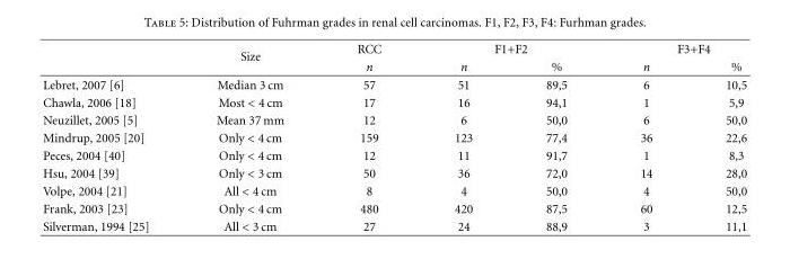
<table><thead><tr><td rowspan="2"></td><td rowspan="2">Size</td><td rowspan="2">RCC n</td><td colspan="2">F1+F2</td><td colspan="2">F3+F4</td></tr><tr><td>n</td><td>%</td><td>n</td><td>%</td></tr></thead><tbody><tr><td>Lebret, 2007 [6]</td><td>Median 3 cm</td><td>57</td><td>51</td><td>89,5</td><td>6</td><td>10,5</td></tr><tr><td>Chawla, 2006 [18]</td><td>Most &lt; 4 cm</td><td>17</td><td>16</td><td>94,1</td><td>1</td><td>5,9</td></tr><tr><td>Neuzillet, 2005 [5]</td><td>Mean 37 mm</td><td>12</td><td>6</td><td>50,0</td><td>6</td><td>50,0</td></tr><tr><td>Mindrup, 2005 [20]</td><td>Only &lt; 4 cm</td><td>159</td><td>123</td><td>77,4</td><td>36</td><td>22,6</td></tr><tr><td>Peces, 2004 [40]</td><td>Only &lt; 4 cm</td><td>12</td><td>11</td><td>91,7</td><td>1</td><td>8,3</td></tr><tr><td>Hsu, 2004 [39]</td><td>Only &lt; 3 cm</td><td>50</td><td>36</td><td>72,0</td><td>14</td><td>28,0</td></tr><tr><td>Volpe, 2004 [21]</td><td>All &lt; 4 cm</td><td>8</td><td>4</td><td>50,0</td><td>4</td><td>50,0</td></tr><tr><td>Frank, 2003 [23]</td><td>Only &lt; 4 cm</td><td>480</td><td>420</td><td>87,5</td><td>60</td><td>12,5</td></tr><tr><td>Silverman, 1994 [25]</td><td>All &lt; 3 cm</td><td>27</td><td>24</td><td>88,9</td><td>3</td><td>11,1</td></tr></tbody></table>